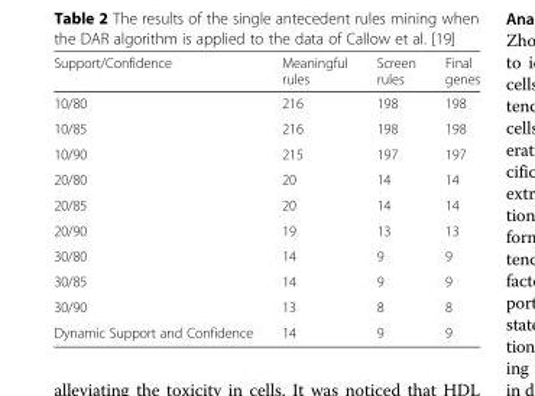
<table><thead><tr><td>Support/Confidence</td><td>Meaningful rules</td><td>Screen rules</td><td>Final genes</td></tr></thead><tbody><tr><td>10/80</td><td>216</td><td>198</td><td>198</td></tr><tr><td>10/85</td><td>216</td><td>198</td><td>198</td></tr><tr><td>10/90</td><td>215</td><td>197</td><td>197</td></tr><tr><td>20/80</td><td>20</td><td>14</td><td>14</td></tr><tr><td>20/85</td><td>20</td><td>14</td><td>14</td></tr><tr><td>20/90</td><td>19</td><td>13</td><td>13</td></tr><tr><td>30/80</td><td>14</td><td>9</td><td>9</td></tr><tr><td>30/85</td><td>14</td><td>9</td><td>9</td></tr><tr><td>30/90</td><td>13</td><td>8</td><td>8</td></tr><tr><td>Dynamic Support and Confidence</td><td>14</td><td>9</td><td>9</td></tr></tbody></table>